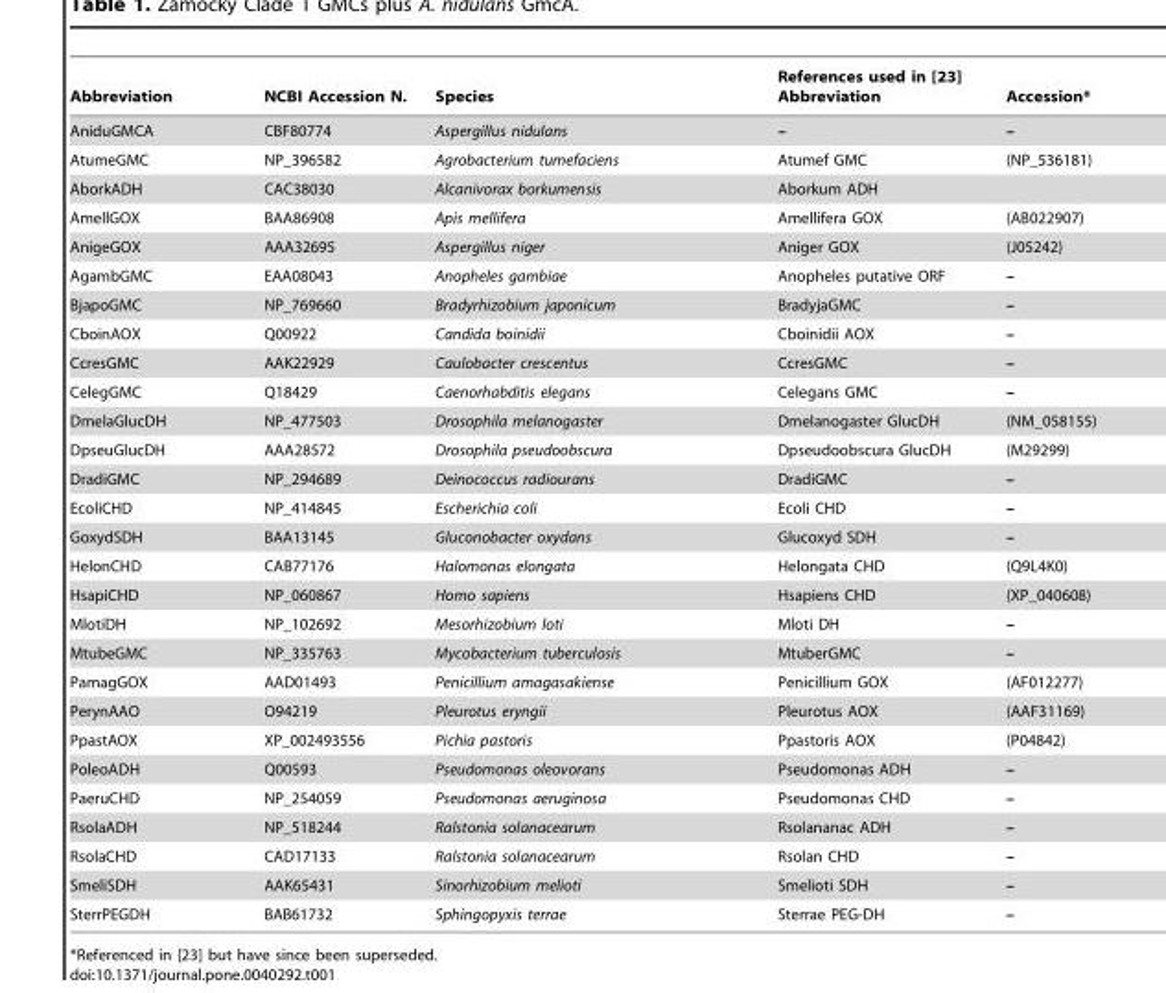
<table><thead><tr><td>Abbreviation</td><td>NCBI Accession N.</td><td>Species</td><td>References used in [23] Abbreviation</td><td>Accession*</td></tr></thead><tbody><tr><td>AniduGMCA</td><td>CBF80774</td><td>Aspergillus nidulans</td><td>–</td><td>–</td></tr><tr><td>AtumeGMC</td><td>NP_396582</td><td>Agrobacterium tumefaciens</td><td>Atumef GMC</td><td>(NP_536181)</td></tr><tr><td>AborkADH</td><td>CAC38030</td><td>Alcanivorax borkumensis</td><td>Aborkum ADH</td><td></td></tr><tr><td>AmellGOX</td><td>BAA86908</td><td>Apis mellifera</td><td>Amellifera GOX</td><td>(AB022907)</td></tr><tr><td>AnigeGOX</td><td>AAA32695</td><td>Aspergillus niger</td><td>Aniger GOX</td><td>(J05242)</td></tr><tr><td>AgambGMC</td><td>EAA08043</td><td>Anopheles gambiae</td><td>Anopheles putative ORF</td><td>–</td></tr><tr><td>BjapoGMC</td><td>NP_769660</td><td>Bradyrhizobium japonicum</td><td>BradyjaGMC</td><td>–</td></tr><tr><td>CboinAOX</td><td>Q00922</td><td>Candida boinidii</td><td>Cboinidii AOX</td><td>–</td></tr><tr><td>CcresGMC</td><td>AAK22929</td><td>Caulobacter crescentus</td><td>CcresGMC</td><td>–</td></tr><tr><td>CelegGMC</td><td>Q18429</td><td>Caenorhabditis elegans</td><td>Celegans GMC</td><td>–</td></tr><tr><td>DmelaGlucDH</td><td>NP_477503</td><td>Drosophila melanogaster</td><td>Dmelanogaster GlucDH</td><td>(NM_058155)</td></tr><tr><td>DpseuGlucDH</td><td>AAA28572</td><td>Drosophila pseudoobscura</td><td>Dpseudoobscura GlucDH</td><td>(M29299)</td></tr><tr><td>DradiGMC</td><td>NP_294689</td><td>Deinococcus radiourans</td><td>DradiGMC</td><td>–</td></tr><tr><td>EcoliCHD</td><td>NP_414845</td><td>Escherichia coli</td><td>Ecoli CHD</td><td>–</td></tr><tr><td>GoxydSDH</td><td>BAA13145</td><td>Gluconobacter oxydans</td><td>Glucoxyd SDH</td><td>–</td></tr><tr><td>HelonCHD</td><td>CAB77176</td><td>Halomonas elongata</td><td>Helongata CHD</td><td>(Q9L4K0)</td></tr><tr><td>HsapiCHD</td><td>NP_060867</td><td>Homo sapiens</td><td>Hsapiens CHD</td><td>(XP_040608)</td></tr><tr><td>MlotiDH</td><td>NP_102692</td><td>Mesorhizobium loti</td><td>Mloti DH</td><td>–</td></tr><tr><td>MtubeGMC</td><td>NP_335763</td><td>Mycobacterium tuberculosis</td><td>MtuberGMC</td><td>–</td></tr><tr><td>PamagGOX</td><td>AAD01493</td><td>Penicillium amagasakiense</td><td>Penicillium GOX</td><td>(AF012277)</td></tr><tr><td>PerynAAO</td><td>O94219</td><td>Pleurotus eryngii</td><td>Pleurotus AOX</td><td>(AAF31169)</td></tr><tr><td>PpastAOX</td><td>XP_002493556</td><td>Pichia pastoris</td><td>Ppastoris AOX</td><td>(P04842)</td></tr><tr><td>PoleoADH</td><td>Q00593</td><td>Pseudomonas oleovorans</td><td>Pseudomonas ADH</td><td>–</td></tr><tr><td>PaeruCHD</td><td>NP_254059</td><td>Pseudomonas aeruginosa</td><td>Pseudomonas CHD</td><td>–</td></tr><tr><td>RsolaADH</td><td>NP_518244</td><td>Ralstonia solanacearum</td><td>Rsolananac ADH</td><td>–</td></tr><tr><td>RsolaCHD</td><td>CAD17133</td><td>Ralstonia solanacearum</td><td>Rsolan CHD</td><td>–</td></tr><tr><td>SmeliSDH</td><td>AAK65431</td><td>Sinorhizobium melioti</td><td>Smelioti SDH</td><td>–</td></tr><tr><td>SterrPEGDH</td><td>BAB61732</td><td>Sphingopyxis terrae</td><td>Sterrae PEG-DH</td><td>–</td></tr></tbody></table>